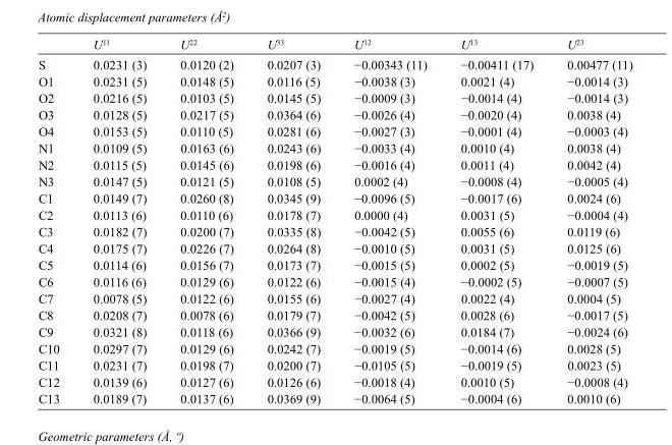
<table><thead><tr><td></td><td>U<sup>11</sup></td><td>U<sup>22</sup></td><td>U<sup>33</sup></td><td>U<sup>12</sup></td><td>U<sup>13</sup></td><td>U<sup>23</sup></td></tr></thead><tbody><tr><td>S</td><td>0.0231 (3)</td><td>0.0120 (2)</td><td>0.0207 (3)</td><td>−0.00343 (11)</td><td>−0.00411 (17)</td><td>0.00477 (11)</td></tr><tr><td>O1</td><td>0.0231 (5)</td><td>0.0148 (5)</td><td>0.0116 (5)</td><td>−0.0038 (3)</td><td>0.0021 (4)</td><td>−0.0014 (3)</td></tr><tr><td>O2</td><td>0.0216 (5)</td><td>0.0103 (5)</td><td>0.0145 (5)</td><td>−0.0009 (3)</td><td>−0.0014 (4)</td><td>−0.0014 (3)</td></tr><tr><td>O3</td><td>0.0128 (5)</td><td>0.0217 (5)</td><td>0.0364 (6)</td><td>−0.0026 (4)</td><td>−0.0020 (4)</td><td>0.0038 (4)</td></tr><tr><td>O4</td><td>0.0153 (5)</td><td>0.0110 (5)</td><td>0.0281 (6)</td><td>−0.0027 (3)</td><td>−0.0001 (4)</td><td>−0.0003 (4)</td></tr><tr><td>N1</td><td>0.0109 (5)</td><td>0.0163 (6)</td><td>0.0243 (6)</td><td>−0.0033 (4)</td><td>0.0010 (4)</td><td>0.0038 (4)</td></tr><tr><td>N2</td><td>0.0115 (5)</td><td>0.0145 (6)</td><td>0.0198 (6)</td><td>−0.0016 (4)</td><td>0.0011 (4)</td><td>0.0042 (4)</td></tr><tr><td>N3</td><td>0.0147 (5)</td><td>0.0121 (5)</td><td>0.0108 (5)</td><td>0.0002 (4)</td><td>−0.0008 (4)</td><td>−0.0005 (4)</td></tr><tr><td>C1</td><td>0.0149 (7)</td><td>0.0260 (8)</td><td>0.0345 (9)</td><td>−0.0096 (5)</td><td>−0.0017 (6)</td><td>0.0024 (6)</td></tr><tr><td>C2</td><td>0.0113 (6)</td><td>0.0110 (6)</td><td>0.0178 (7)</td><td>0.0000 (4)</td><td>0.0031 (5)</td><td>−0.0004 (4)</td></tr><tr><td>C3</td><td>0.0182 (7)</td><td>0.0200 (7)</td><td>0.0335 (8)</td><td>−0.0042 (5)</td><td>0.0055 (6)</td><td>0.0119 (6)</td></tr><tr><td>C4</td><td>0.0175 (7)</td><td>0.0226 (7)</td><td>0.0264 (8)</td><td>−0.0010 (5)</td><td>0.0031 (5)</td><td>0.0125 (6)</td></tr><tr><td>C5</td><td>0.0114 (6)</td><td>0.0156 (7)</td><td>0.0173 (7)</td><td>−0.0015 (5)</td><td>0.0002 (5)</td><td>−0.0019 (5)</td></tr><tr><td>C6</td><td>0.0116 (6)</td><td>0.0129 (6)</td><td>0.0122 (6)</td><td>−0.0015 (4)</td><td>−0.0002 (5)</td><td>−0.0007 (5)</td></tr><tr><td>C7</td><td>0.0078 (5)</td><td>0.0122 (6)</td><td>0.0155 (6)</td><td>−0.0027 (4)</td><td>0.0022 (4)</td><td>0.0004 (5)</td></tr><tr><td>C8</td><td>0.0208 (7)</td><td>0.0078 (6)</td><td>0.0179 (7)</td><td>−0.0042 (5)</td><td>0.0028 (6)</td><td>−0.0017 (5)</td></tr><tr><td>C9</td><td>0.0321 (8)</td><td>0.0118 (6)</td><td>0.0366 (9)</td><td>−0.0032 (6)</td><td>0.0184 (7)</td><td>−0.0024 (6)</td></tr><tr><td>C10</td><td>0.0297 (7)</td><td>0.0129 (6)</td><td>0.0242 (7)</td><td>−0.0019 (5)</td><td>−0.0014 (6)</td><td>0.0028 (5)</td></tr><tr><td>C11</td><td>0.0231 (7)</td><td>0.0198 (7)</td><td>0.0200 (7)</td><td>−0.0105 (5)</td><td>−0.0019 (5)</td><td>0.0023 (5)</td></tr><tr><td>C12</td><td>0.0139 (6)</td><td>0.0127 (6)</td><td>0.0126 (6)</td><td>−0.0018 (4)</td><td>0.0010 (5)</td><td>−0.0008 (4)</td></tr><tr><td>C13</td><td>0.0189 (7)</td><td>0.0137 (6)</td><td>0.0369 (9)</td><td>−0.0064 (5)</td><td>−0.0004 (6)</td><td>0.0010 (6)</td></tr></tbody></table>